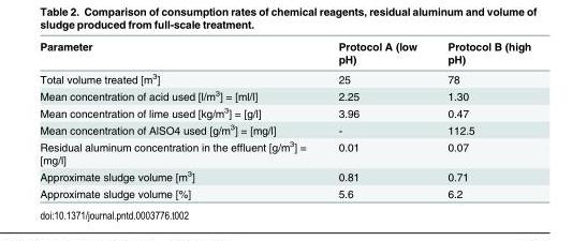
<table><thead><tr><td>Parameter</td><td>Protocol A (low pH)</td><td>Protocol B (high pH)</td></tr></thead><tbody><tr><td>Total volume treated [m<sup>3</sup>]</td><td>25</td><td>78</td></tr><tr><td>Mean concentration of acid used [l/m<sup>3</sup>] = [ml/l]</td><td>2.25</td><td>1.30</td></tr><tr><td>Mean concentration of lime used [kg/m<sup>3</sup>] = [g/l]</td><td>3.96</td><td>0.47</td></tr><tr><td>Mean concentration of AlSO4 used [g/m<sup>3</sup>] = [mg/l]</td><td>-</td><td>112.5</td></tr><tr><td>Residual aluminum concentration in the effluent [g/m<sup>3</sup>] = [mg/l]</td><td>0.01</td><td>0.07</td></tr><tr><td>Approximate sludge volume [m<sup>3</sup>]</td><td>0.81</td><td>0.71</td></tr><tr><td>Approximate sludge volume [%]</td><td>5.6</td><td>6.2</td></tr></tbody></table>